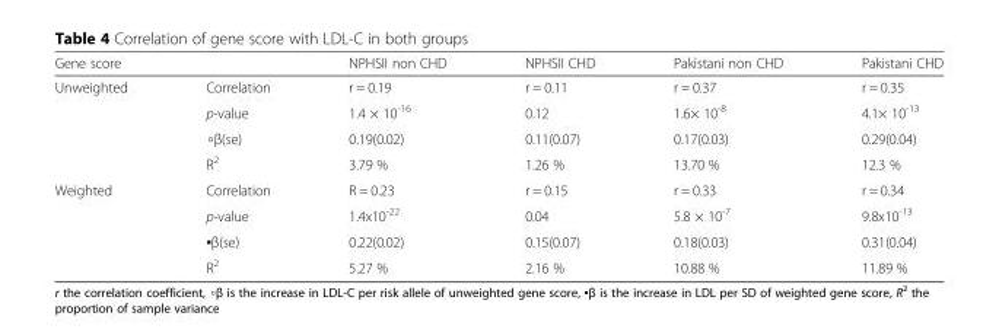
<table><thead><tr><td>Gene score</td><td></td><td>NPHSII non CHD</td><td>NPHSII CHD</td><td>Pakistani non CHD</td><td>Pakistani CHD</td></tr></thead><tbody><tr><td rowspan="4">Unweighted</td><td>Correlation</td><td>r = 0.19</td><td>r = 0.11</td><td>r = 0.37</td><td>r = 0.35</td></tr><tr><td>p-value</td><td>1.4 × 10<sup>-16</sup></td><td>0.12</td><td>1.6× 10<sup>-8</sup></td><td>4.1× 10<sup>-13</sup></td></tr><tr><td>▫β(se)</td><td>0.19(0.02)</td><td>0.11(0.07)</td><td>0.17(0.03)</td><td>0.29(0.04)</td></tr><tr><td>R<sup>2</sup></td><td>3.79 %</td><td>1.26 %</td><td>13.70 %</td><td>12.3 %</td></tr><tr><td rowspan="4">Weighted</td><td>Correlation</td><td>R = 0.23</td><td>r = 0.15</td><td>r = 0.33</td><td>r = 0.34</td></tr><tr><td>p-value</td><td>1.4x10<sup>-22</sup></td><td>0.04</td><td>5.8 × 10<sup>-7</sup></td><td>9.8x10<sup>-13</sup></td></tr><tr><td>▪β(se)</td><td>0.22(0.02)</td><td>0.15(0.07)</td><td>0.18(0.03)</td><td>0.31(0.04)</td></tr><tr><td>R<sup>2</sup></td><td>5.27 %</td><td>2.16 %</td><td>10.88 %</td><td>11.89 %</td></tr></tbody></table>